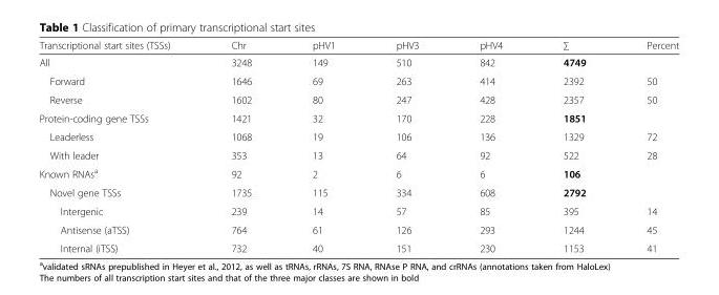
<table><thead><tr><td>Transcriptional start sites (TSSs)</td><td>Chr</td><td>pHV1</td><td>pHV3</td><td>pHV4</td><td>∑</td><td>Percent</td></tr></thead><tbody><tr><td>All</td><td>3248</td><td>149</td><td>510</td><td>842</td><td>4749</td><td></td></tr><tr><td>Forward</td><td>1646</td><td>69</td><td>263</td><td>414</td><td>2392</td><td>50</td></tr><tr><td>Reverse</td><td>1602</td><td>80</td><td>247</td><td>428</td><td>2357</td><td>50</td></tr><tr><td>Protein-coding gene TSSs</td><td>1421</td><td>32</td><td>170</td><td>228</td><td>1851</td><td></td></tr><tr><td>Leaderless</td><td>1068</td><td>19</td><td>106</td><td>136</td><td>1329</td><td>72</td></tr><tr><td>With leader</td><td>353</td><td>13</td><td>64</td><td>92</td><td>522</td><td>28</td></tr><tr><td>Known RNAs<sup>a</sup></td><td>92</td><td>2</td><td>6</td><td>6</td><td>106</td><td></td></tr><tr><td>Novel gene TSSs</td><td>1735</td><td>115</td><td>334</td><td>608</td><td>2792</td><td></td></tr><tr><td>Intergenic</td><td>239</td><td>14</td><td>57</td><td>85</td><td>395</td><td>14</td></tr><tr><td>Antisense (aTSS)</td><td>764</td><td>61</td><td>126</td><td>293</td><td>1244</td><td>45</td></tr><tr><td>Internal (iTSS)</td><td>732</td><td>40</td><td>151</td><td>230</td><td>1153</td><td>41</td></tr></tbody></table>